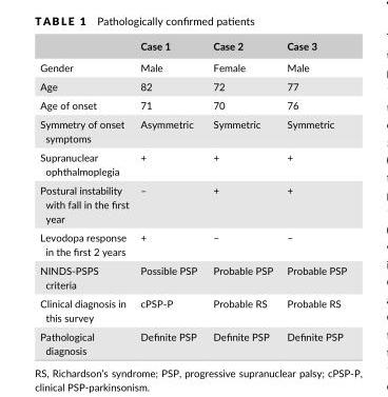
<table><thead><tr><td></td><td>Case 1</td><td>Case 2</td><td>Case 3</td></tr></thead><tbody><tr><td>Gender</td><td>Male</td><td>Female</td><td>Male</td></tr><tr><td>Age</td><td>82</td><td>72</td><td>77</td></tr><tr><td>Age of onset</td><td>71</td><td>70</td><td>76</td></tr><tr><td>Symmetry of onset symptoms</td><td>Asymmetric</td><td>Symmetric</td><td>Symmetric</td></tr><tr><td>Supranuclear ophthalmoplegia</td><td>+</td><td>+</td><td>+</td></tr><tr><td>Postural instability with fall in the first year</td><td>–</td><td>+</td><td>+</td></tr><tr><td>Levodopa response in the first 2 years</td><td>+</td><td>–</td><td>–</td></tr><tr><td>NINDS- PSPS criteria</td><td>Possible PSP</td><td>Probable PSP</td><td>Probable PSP</td></tr><tr><td>Clinical diagnosis in this survey</td><td>cPSP- P</td><td>Probable RS</td><td>Probable RS</td></tr><tr><td>Pathological diagnosis</td><td>Definite PSP</td><td>Definite PSP</td><td>Definite PSP</td></tr></tbody></table>